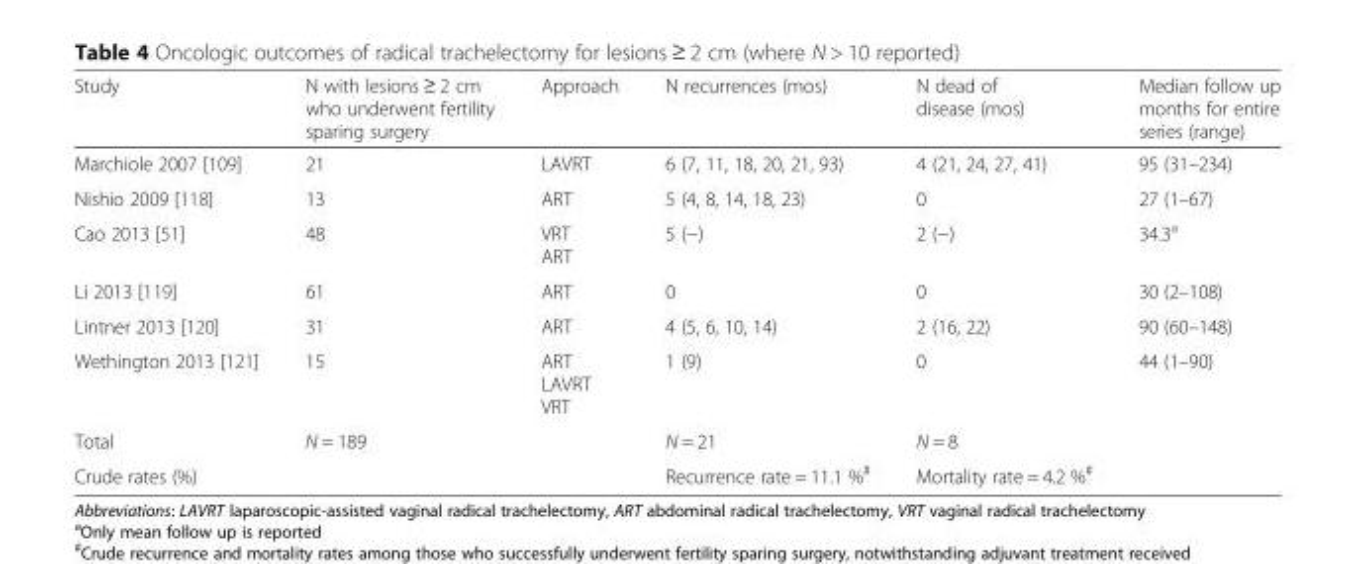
<table><thead><tr><td>Study</td><td>N with lesions ≥ 2 cm who underwent fertility sparing surgery</td><td>Approach</td><td>N recurrences (mos)</td><td>N dead of disease (mos)</td><td>Median follow up months for entire series (range)</td></tr></thead><tbody><tr><td>Marchiole 2007 [109]</td><td>21</td><td>LAVRT</td><td>6 (7, 11, 18, 20, 21, 93)</td><td>4 (21, 24, 27, 41)</td><td>95 (31–234)</td></tr><tr><td>Nishio 2009 [118]</td><td>13</td><td>ART</td><td>5 (4, 8, 14, 18, 23)</td><td>0</td><td>27 (1–67)</td></tr><tr><td>Cao 2013 [51]</td><td>48</td><td>VRT ART</td><td>5 (−)</td><td>2 (−)</td><td>34.3<sup>a</sup></td></tr><tr><td>Li 2013 [119]</td><td>61</td><td>ART</td><td>0</td><td>0</td><td>30 (2–108)</td></tr><tr><td>Lintner 2013 [120]</td><td>31</td><td>ART</td><td>4 (5, 6, 10, 14)</td><td>2 (16, 22)</td><td>90 (60–148)</td></tr><tr><td>Wethington 2013 [121]</td><td>15</td><td>ART LAVRT VRT</td><td>1 (9)</td><td>0</td><td>44 (1–90)</td></tr><tr><td>Total</td><td>N = 189</td><td></td><td>N = 21</td><td>N = 8</td><td></td></tr><tr><td>Crude rates (%)</td><td></td><td></td><td>Recurrence rate = 11.1 %<sup>#</sup></td><td>Mortality rate = 4.2 %<sup>#</sup></td><td></td></tr></tbody></table>